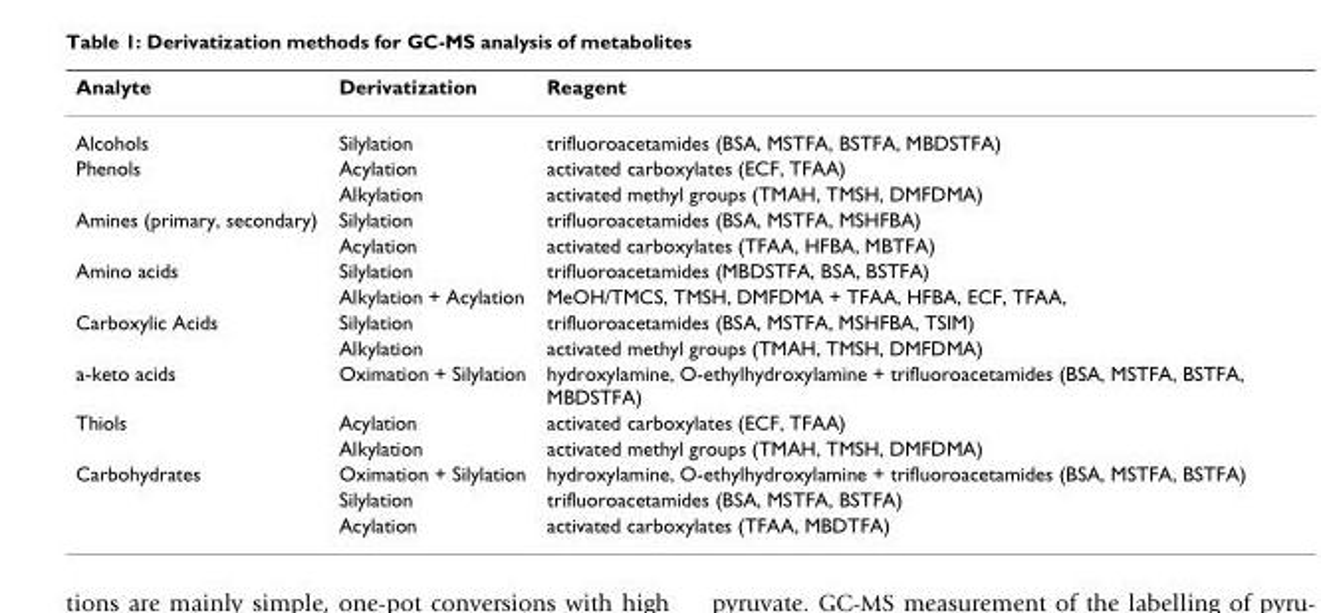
<table><thead><tr><td>Analyte</td><td>Derivatization</td><td>Reagent</td></tr></thead><tbody><tr><td>Alcohols</td><td>Silylation</td><td>trifluoroacetamides (BSA, MSTFA, BSTFA, MBDSTFA)</td></tr><tr><td rowspan="2">Phenols</td><td>Acylation</td><td>activated carboxylates (ECF, TFAA)</td></tr><tr><td>Alkylation</td><td>activated methyl groups (TMAH, TMSH, DMFDMA)</td></tr><tr><td rowspan="2">Amines (primary, secondary)</td><td>Silylation</td><td>trifluoroacetamides (BSA, MSTFA, MSHFBA)</td></tr><tr><td>Acylation</td><td>activated carboxylates (TFAA, HFBA, MBTFA)</td></tr><tr><td rowspan="2">Amino acids</td><td>Silylation</td><td>trifluoroacetamides (MBDSTFA, BSA, BSTFA)</td></tr><tr><td>Alkylation + Acylation</td><td>MeOH/TMCS, TMSH, DMFDMA + TFAA, HFBA, ECF, TFAA,</td></tr><tr><td rowspan="2">Carboxylic Acids</td><td>Silylation</td><td>trifluoroacetamides (BSA, MSTFA, MSHFBA, TSIM)</td></tr><tr><td>Alkylation</td><td>activated methyl groups (TMAH, TMSH, DMFDMA)</td></tr><tr><td>a-keto acids</td><td>Oximation + Silylation</td><td>hydroxylamine, O-ethylhydroxylamine + trifluoroacetamides (BSA, MSTFA, BSTFA, MBDSTFA)</td></tr><tr><td rowspan="2">Thiols</td><td>Acylation</td><td>activated carboxylates (ECF, TFAA)</td></tr><tr><td>Alkylation</td><td>activated methyl groups (TMAH, TMSH, DMFDMA)</td></tr><tr><td rowspan="3">Carbohydrates</td><td>Oximation + Silylation</td><td>hydroxylamine, O-ethylhydroxylamine + trifluoroacetamides (BSA, MSTFA, BSTFA)</td></tr><tr><td>Silylation</td><td>trifluoroacetamides (BSA, MSTFA, BSTFA)</td></tr><tr><td>Acylation</td><td>activated carboxylates (TFAA, MBDTFA)</td></tr></tbody></table>